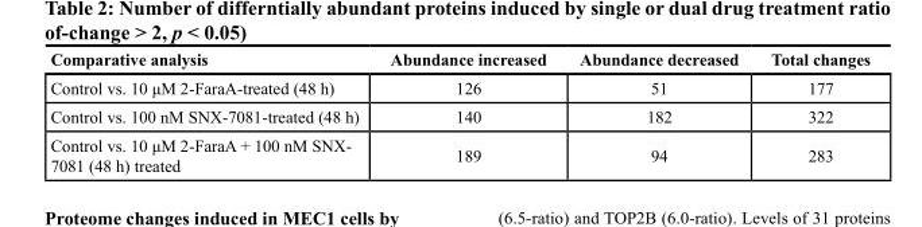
<table><thead><tr><td>Comparative analysis</td><td>Abundance increased</td><td>Abundance decreased</td><td>Total changes</td></tr></thead><tbody><tr><td>Control vs. 10 μM 2-FaraA-treated (48 h)</td><td>126</td><td>51</td><td>177</td></tr><tr><td>Control vs. 100 nM SNX-7081-treated (48 h)</td><td>140</td><td>182</td><td>322</td></tr><tr><td>Control vs. 10 μM 2-FaraA + 100 nM SNX- 7081 (48 h) treated</td><td>189</td><td>94</td><td>283</td></tr></tbody></table>